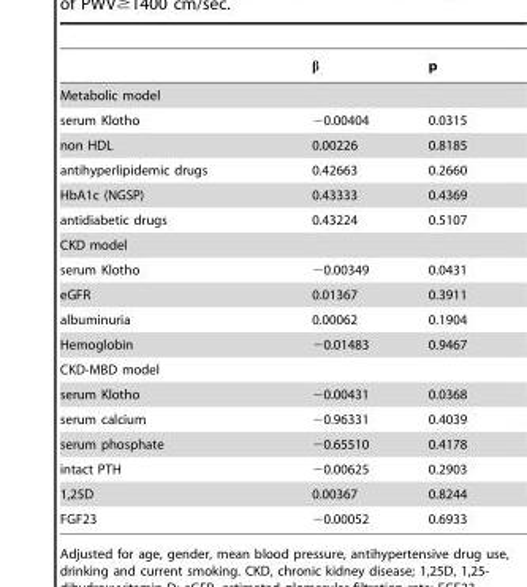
<table><thead><tr><td></td><td>β</td><td>p</td></tr></thead><tbody><tr><td colspan="3">Metabolic model</td></tr><tr><td>serum Klotho</td><td>−0.00404</td><td>0.0315</td></tr><tr><td>non HDL</td><td>0.00226</td><td>0.8185</td></tr><tr><td>antihyperlipidemic drugs</td><td>0.42663</td><td>0.2660</td></tr><tr><td>HbA1c (NGSP)</td><td>0.43333</td><td>0.4369</td></tr><tr><td>antidiabetic drugs</td><td>0.43224</td><td>0.5107</td></tr><tr><td colspan="3">CKD model</td></tr><tr><td>serum Klotho</td><td>−0.00349</td><td>0.0431</td></tr><tr><td>eGFR</td><td>0.01367</td><td>0.3911</td></tr><tr><td>albuminuria</td><td>0.00062</td><td>0.1904</td></tr><tr><td>Hemoglobin</td><td>−0.01483</td><td>0.9467</td></tr><tr><td colspan="3">CKD-MBD model</td></tr><tr><td>serum Klotho</td><td>−0.00431</td><td>0.0368</td></tr><tr><td>serum calcium</td><td>−0.96331</td><td>0.4039</td></tr><tr><td>serum phosphate</td><td>−0.65510</td><td>0.4178</td></tr><tr><td>intact PTH</td><td>−0.00625</td><td>0.2903</td></tr><tr><td>1,25D</td><td>0.00367</td><td>0.8244</td></tr><tr><td>FGF23</td><td>−0.00052</td><td>0.6933</td></tr></tbody></table>